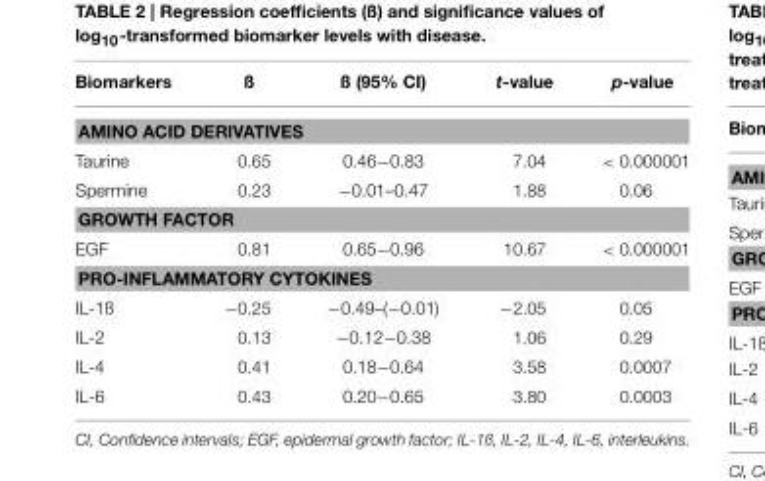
<table><thead><tr><td>Biomarkers</td><td>ß</td><td>ß (95% CI)</td><td>t-value</td><td>p-value</td></tr></thead><tbody><tr><td colspan="5">AMINO ACID DERIVATIVES</td></tr><tr><td>Taurine</td><td>0.65</td><td>0.46−0.83</td><td>7.04</td><td>&lt; 0.000001</td></tr><tr><td>Spermine</td><td>0.23</td><td>−0.01–0.47</td><td>1.88</td><td>0.06</td></tr><tr><td colspan="5">GROWTH FACTOR</td></tr><tr><td>EGF</td><td>0.81</td><td>0.65−0.96</td><td>10.67</td><td>&lt; 0.000001</td></tr><tr><td colspan="5">PRO-INFLAMMATORY CYTOKINES</td></tr><tr><td>IL-1ß</td><td>−0.25</td><td>−0.49–(−0.01)</td><td>−2.05</td><td>0.05</td></tr><tr><td>IL-2</td><td>0.13</td><td>−0.12−0.38</td><td>1.06</td><td>0.29</td></tr><tr><td>IL-4</td><td>0.41</td><td>0.18−0.64</td><td>3.58</td><td>0.0007</td></tr><tr><td>IL-6</td><td>0.43</td><td>0.20−0.65</td><td>3.80</td><td>0.0003</td></tr></tbody></table>